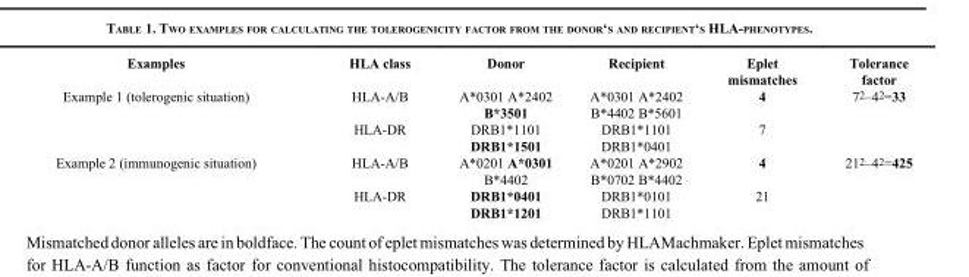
<table><thead><tr><td>Examples</td><td>HLA class</td><td>Donor</td><td>Recipient</td><td>Eplet mismatches</td><td>Tolerance factor</td></tr></thead><tbody><tr><td rowspan="2">Example 1 (tolerogenic situation)</td><td>HLA-A/B</td><td>A*0301 A*2402 B*3501</td><td>A*0301 A*2402 B*4402 B*5601</td><td>4</td><td rowspan="2">7<sup>2</sup>–4<sup>2</sup>=33</td></tr><tr><td>HLA-DR</td><td>DRB1*1101 DRB1*1501</td><td>DRB1*1101 DRB1*0401</td><td>7</td></tr><tr><td rowspan="2">Example 2 (immunogenic situation)</td><td>HLA-A/B</td><td>A*0201 A*0301 B*4402</td><td>A*0201 A*2902 B*0702 B*4402</td><td>4</td><td rowspan="2">21<sup>2</sup>–4<sup>2</sup>=425</td></tr><tr><td>HLA-DR</td><td>DRB1*0401 DRB1*1201</td><td>DRB1*0101 DRB1*1101</td><td>21</td></tr></tbody></table>